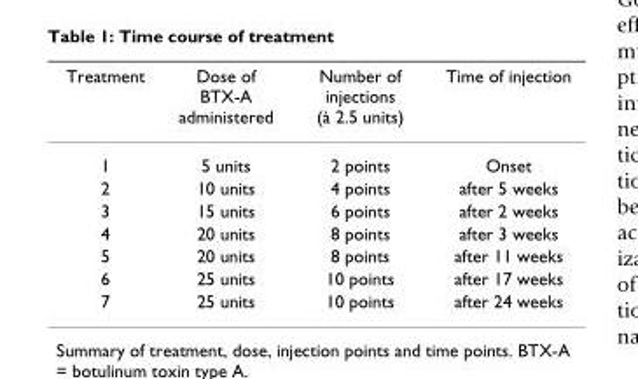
<table><thead><tr><td>Treatment</td><td>Dose of BTX-A administered</td><td>Number of injections (à 2.5 units)</td><td>Time of injection</td></tr></thead><tbody><tr><td>1</td><td>5 units</td><td>2 points</td><td>Onset</td></tr><tr><td>2</td><td>10 units</td><td>4 points</td><td>after 5 weeks</td></tr><tr><td>3</td><td>15 units</td><td>6 points</td><td>after 2 weeks</td></tr><tr><td>4</td><td>20 units</td><td>8 points</td><td>after 3 weeks</td></tr><tr><td>5</td><td>20 units</td><td>8 points</td><td>after 11 weeks</td></tr><tr><td>6</td><td>25 units</td><td>10 points</td><td>after 17 weeks</td></tr><tr><td>7</td><td>25 units</td><td>10 points</td><td>after 24 weeks</td></tr></tbody></table>